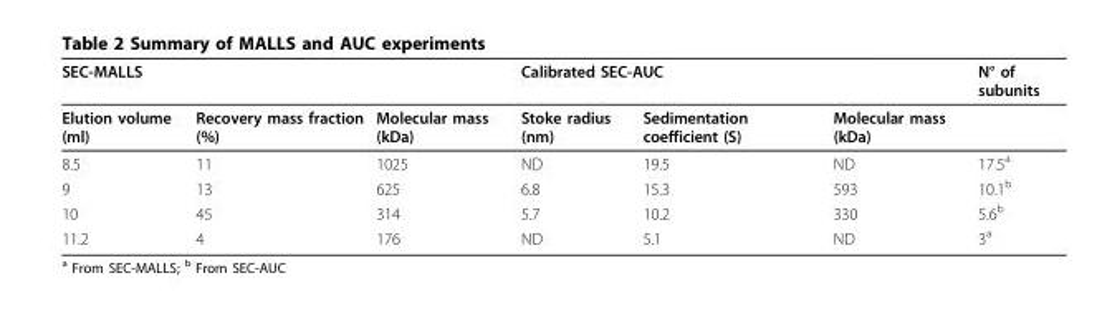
<table><thead><tr><td colspan="3">SEC-MALLS</td><td colspan="3">Calibrated SEC-AUC</td><td rowspan="2">N° of subunits</td></tr><tr><td>Elution volume (ml)</td><td>Recovery mass fraction (%)</td><td>Molecular mass (kDa)</td><td>Stoke radius (nm)</td><td>Sedimentation coefficient (S)</td><td>Molecular mass (kDa)</td></tr></thead><tbody><tr><td>8.5</td><td>11</td><td>1025</td><td>ND</td><td>19.5</td><td>ND</td><td>17.5<sup>a</sup></td></tr><tr><td>9</td><td>13</td><td>625</td><td>6.8</td><td>15.3</td><td>593</td><td>10.1<sup>b</sup></td></tr><tr><td>10</td><td>45</td><td>314</td><td>5.7</td><td>10.2</td><td>330</td><td>5.6<sup>b</sup></td></tr><tr><td>11.2</td><td>4</td><td>176</td><td>ND</td><td>5.1</td><td>ND</td><td>3<sup>a</sup></td></tr></tbody></table>